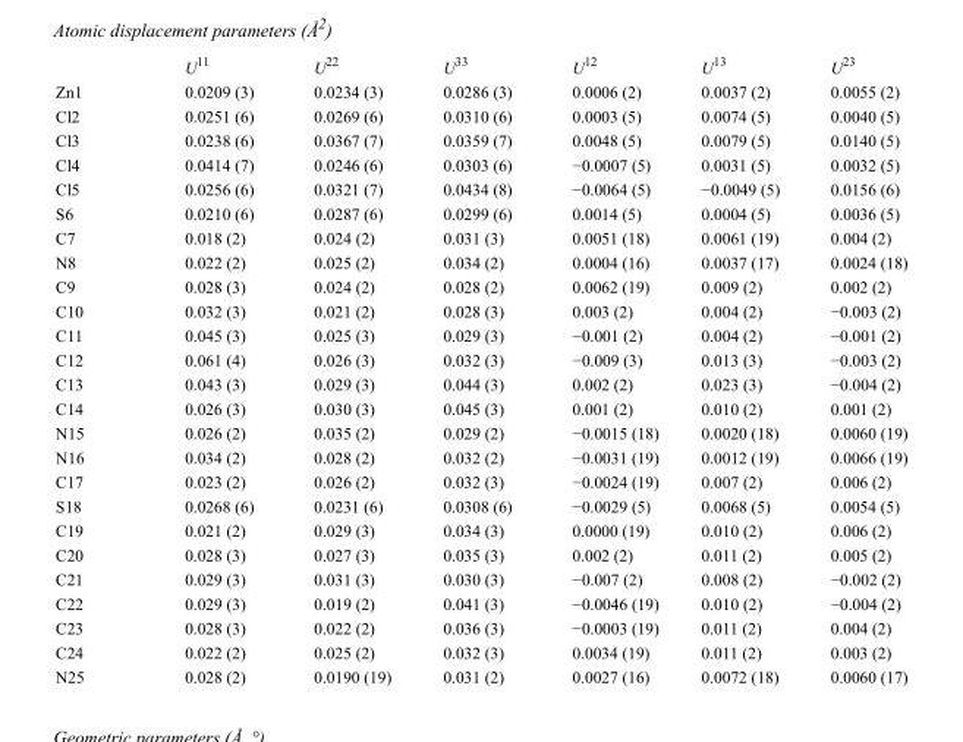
<table><thead><tr><td></td><td>U<sup>11</sup></td><td>U<sup>22</sup></td><td>U<sup>33</sup></td><td>U<sup>12</sup></td><td>U<sup>13</sup></td><td>U<sup>23</sup></td></tr></thead><tbody><tr><td>Zn1</td><td>0.0209 (3)</td><td>0.0234 (3)</td><td>0.0286 (3)</td><td>0.0006 (2)</td><td>0.0037 (2)</td><td>0.0055 (2)</td></tr><tr><td>Cl2</td><td>0.0251 (6)</td><td>0.0269 (6)</td><td>0.0310 (6)</td><td>0.0003 (5)</td><td>0.0074 (5)</td><td>0.0040 (5)</td></tr><tr><td>Cl3</td><td>0.0238 (6)</td><td>0.0367 (7)</td><td>0.0359 (7)</td><td>0.0048 (5)</td><td>0.0079 (5)</td><td>0.0140 (5)</td></tr><tr><td>Cl4</td><td>0.0414 (7)</td><td>0.0246 (6)</td><td>0.0303 (6)</td><td>−0.0007 (5)</td><td>0.0031 (5)</td><td>0.0032 (5)</td></tr><tr><td>Cl5</td><td>0.0256 (6)</td><td>0.0321 (7)</td><td>0.0434 (8)</td><td>−0.0064 (5)</td><td>−0.0049 (5)</td><td>0.0156 (6)</td></tr><tr><td>S6</td><td>0.0210 (6)</td><td>0.0287 (6)</td><td>0.0299 (6)</td><td>0.0014 (5)</td><td>0.0004 (5)</td><td>0.0036 (5)</td></tr><tr><td>C7</td><td>0.018 (2)</td><td>0.024 (2)</td><td>0.031 (3)</td><td>0.0051 (18)</td><td>0.0061 (19)</td><td>0.004 (2)</td></tr><tr><td>N8</td><td>0.022 (2)</td><td>0.025 (2)</td><td>0.034 (2)</td><td>0.0004 (16)</td><td>0.0037 (17)</td><td>0.0024 (18)</td></tr><tr><td>C9</td><td>0.028 (3)</td><td>0.024 (2)</td><td>0.028 (2)</td><td>0.0062 (19)</td><td>0.009 (2)</td><td>0.002 (2)</td></tr><tr><td>C10</td><td>0.032 (3)</td><td>0.021 (2)</td><td>0.028 (3)</td><td>0.003 (2)</td><td>0.004 (2)</td><td>−0.003 (2)</td></tr><tr><td>C11</td><td>0.045 (3)</td><td>0.025 (3)</td><td>0.029 (3)</td><td>−0.001 (2)</td><td>0.004 (2)</td><td>−0.001 (2)</td></tr><tr><td>C12</td><td>0.061 (4)</td><td>0.026 (3)</td><td>0.032 (3)</td><td>−0.009 (3)</td><td>0.013 (3)</td><td>−0.003 (2)</td></tr><tr><td>C13</td><td>0.043 (3)</td><td>0.029 (3)</td><td>0.044 (3)</td><td>0.002 (2)</td><td>0.023 (3)</td><td>−0.004 (2)</td></tr><tr><td>C14</td><td>0.026 (3)</td><td>0.030 (3)</td><td>0.045 (3)</td><td>0.001 (2)</td><td>0.010 (2)</td><td>0.001 (2)</td></tr><tr><td>N15</td><td>0.026 (2)</td><td>0.035 (2)</td><td>0.029 (2)</td><td>−0.0015 (18)</td><td>0.0020 (18)</td><td>0.0060 (19)</td></tr><tr><td>N16</td><td>0.034 (2)</td><td>0.028 (2)</td><td>0.032 (2)</td><td>−0.0031 (19)</td><td>0.0012 (19)</td><td>0.0066 (19)</td></tr><tr><td>C17</td><td>0.023 (2)</td><td>0.026 (2)</td><td>0.032 (3)</td><td>−0.0024 (19)</td><td>0.007 (2)</td><td>0.006 (2)</td></tr><tr><td>S18</td><td>0.0268 (6)</td><td>0.0231 (6)</td><td>0.0308 (6)</td><td>−0.0029 (5)</td><td>0.0068 (5)</td><td>0.0054 (5)</td></tr><tr><td>C19</td><td>0.021 (2)</td><td>0.029 (3)</td><td>0.034 (3)</td><td>0.0000 (19)</td><td>0.010 (2)</td><td>0.006 (2)</td></tr><tr><td>C20</td><td>0.028 (3)</td><td>0.027 (3)</td><td>0.035 (3)</td><td>0.002 (2)</td><td>0.011 (2)</td><td>0.005 (2)</td></tr><tr><td>C21</td><td>0.029 (3)</td><td>0.031 (3)</td><td>0.030 (3)</td><td>−0.007 (2)</td><td>0.008 (2)</td><td>−0.002 (2)</td></tr><tr><td>C22</td><td>0.029 (3)</td><td>0.019 (2)</td><td>0.041 (3)</td><td>−0.0046 (19)</td><td>0.010 (2)</td><td>−0.004 (2)</td></tr><tr><td>C23</td><td>0.028 (3)</td><td>0.022 (2)</td><td>0.036 (3)</td><td>−0.0003 (19)</td><td>0.011 (2)</td><td>0.004 (2)</td></tr><tr><td>C24</td><td>0.022 (2)</td><td>0.025 (2)</td><td>0.032 (3)</td><td>0.0034 (19)</td><td>0.011 (2)</td><td>0.003 (2)</td></tr><tr><td>N25</td><td>0.028 (2)</td><td>0.0190 (19)</td><td>0.031 (2)</td><td>0.0027 (16)</td><td>0.0072 (18)</td><td>0.0060 (17)</td></tr></tbody></table>